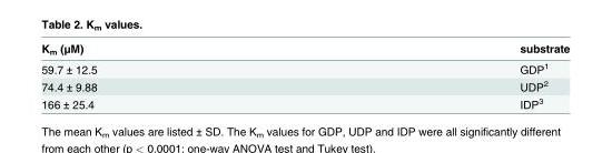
<table><thead><tr><td>K<sub>m</sub> (μM)</td><td>substrate</td></tr></thead><tbody><tr><td>59.7 ± 12.5</td><td>GDP<sup>1</sup></td></tr><tr><td>74.4 ± 9.88</td><td>UDP<sup>2</sup></td></tr><tr><td>166 ± 25.4</td><td>IDP<sup>3</sup></td></tr></tbody></table>